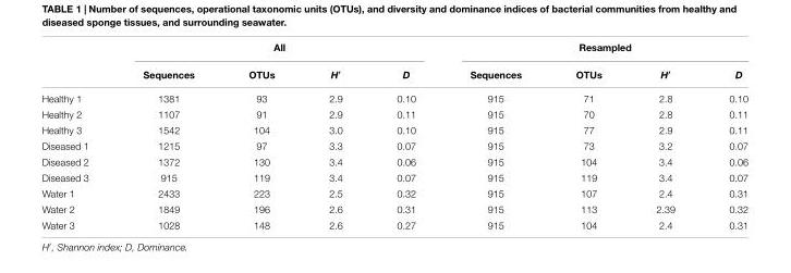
<table><thead><tr><td rowspan="2"></td><td colspan="4">All</td><td colspan="4">Resampled</td></tr><tr><td>Sequences</td><td>OTUs</td><td>H′</td><td>D</td><td>Sequences</td><td>OTUs</td><td>H′</td><td>D</td></tr></thead><tbody><tr><td>Healthy 1</td><td>1381</td><td>93</td><td>2.9</td><td>0.10</td><td>915</td><td>71</td><td>2.8</td><td>0.10</td></tr><tr><td>Healthy 2</td><td>1107</td><td>91</td><td>2.9</td><td>0.11</td><td>915</td><td>70</td><td>2.8</td><td>0.11</td></tr><tr><td>Healthy 3</td><td>1542</td><td>104</td><td>3.0</td><td>0.10</td><td>915</td><td>77</td><td>2.9</td><td>0.11</td></tr><tr><td>Diseased 1</td><td>1215</td><td>97</td><td>3.3</td><td>0.07</td><td>915</td><td>73</td><td>3.2</td><td>0.07</td></tr><tr><td>Diseased 2</td><td>1372</td><td>130</td><td>3.4</td><td>0.06</td><td>915</td><td>104</td><td>3.4</td><td>0.06</td></tr><tr><td>Diseased 3</td><td>915</td><td>119</td><td>3.4</td><td>0.07</td><td>915</td><td>119</td><td>3.4</td><td>0.07</td></tr><tr><td>Water 1</td><td>2433</td><td>223</td><td>2.5</td><td>0.32</td><td>915</td><td>107</td><td>2.4</td><td>0.31</td></tr><tr><td>Water 2</td><td>1849</td><td>196</td><td>2.6</td><td>0.31</td><td>915</td><td>113</td><td>2.39</td><td>0.32</td></tr><tr><td>Water 3</td><td>1028</td><td>148</td><td>2.6</td><td>0.27</td><td>915</td><td>104</td><td>2.4</td><td>0.31</td></tr></tbody></table>